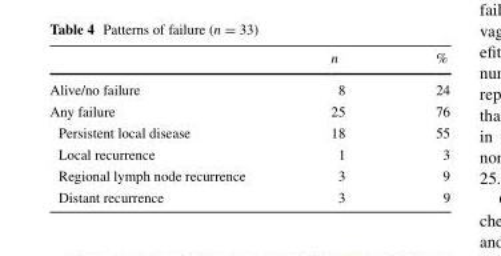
<table><thead><tr><td></td><td>n</td><td>%</td></tr></thead><tbody><tr><td>Alive/no failure</td><td>8</td><td>24</td></tr><tr><td>Any failure</td><td>25</td><td>76</td></tr><tr><td>Persistent local disease</td><td>18</td><td>55</td></tr><tr><td>Local recurrence</td><td>1</td><td>3</td></tr><tr><td>Regional lymph node recurrence</td><td>3</td><td>9</td></tr><tr><td>Distant recurrence</td><td>3</td><td>9</td></tr></tbody></table>